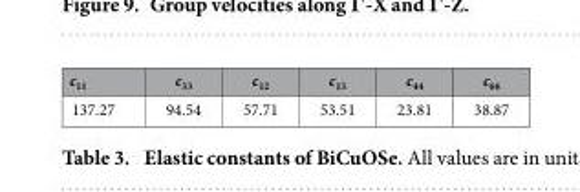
<table><thead><tr><td>c<sub>11</sub></td><td>c<sub>33</sub></td><td>c<sub>12</sub></td><td>c<sub>13</sub></td><td>c<sub>44</sub></td><td>c<sub>66</sub></td></tr></thead><tbody><tr><td>137.27</td><td>94.54</td><td>57.71</td><td>53.51</td><td>23.81</td><td>38.87</td></tr></tbody></table>